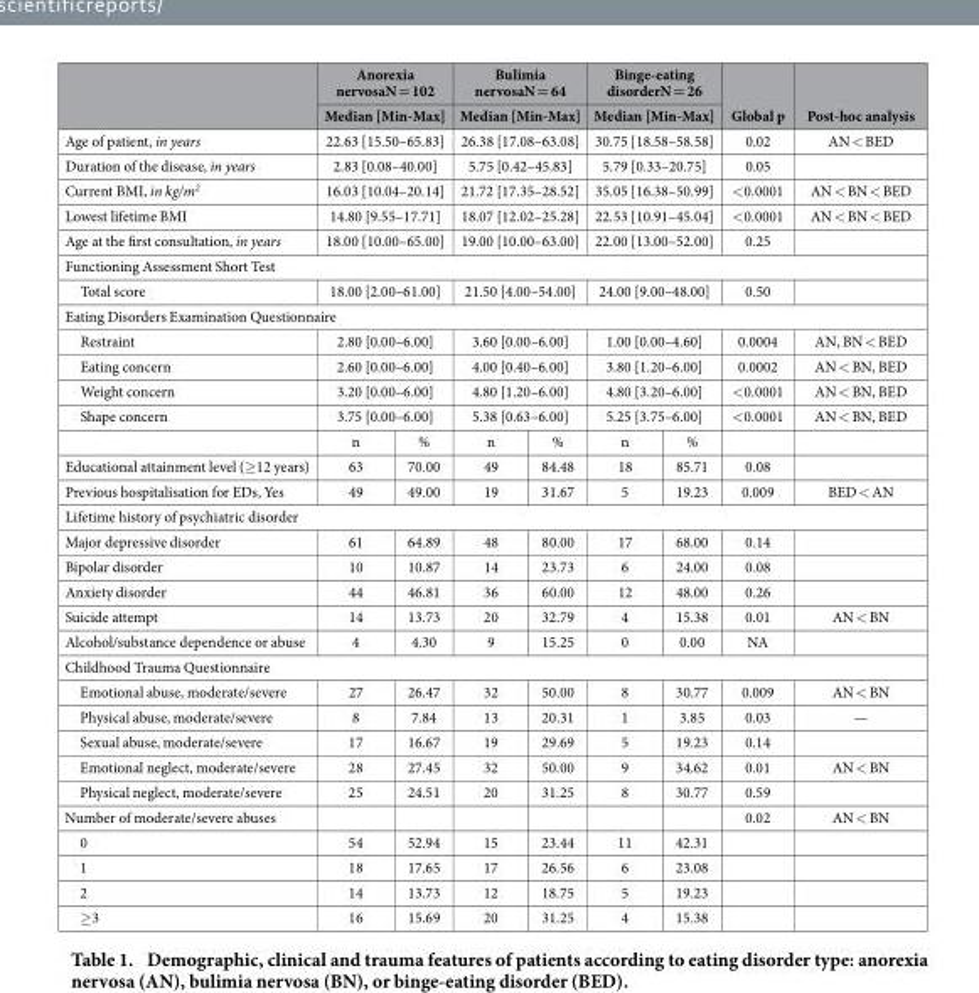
<table><thead><tr><td rowspan="2"></td><td rowspan="2" colspan="2">Anorexia nervosaN = 102 Median [Min-Max]</td><td rowspan="2" colspan="2">Bulimia nervosaN = 64 Median [Min-Max]</td><td rowspan="2" colspan="2">Binge-eating disorderN = 26 Median [Min-Max]</td><td rowspan="2">Global p</td><td rowspan="2">Post-hoc analysis</td></tr><tr></tr></thead><tbody><tr><td>Age of patient, in years</td><td colspan="2">22.63 [15.50–65.83]</td><td colspan="2">26.38 [17.08–63.08]</td><td colspan="2">30.75 [18.58–58.58]</td><td>0.02</td><td>AN &lt; BED</td></tr><tr><td>Duration of the disease, in years</td><td colspan="2">2.83 [0.08–40.00]</td><td colspan="2">5.75 [0.42–45.83]</td><td colspan="2">5.79 [0.33–20.75]</td><td>0.05</td><td></td></tr><tr><td>Current BMI, in kg/m<sup>2</sup></td><td colspan="2">16.03 [10.04–20.14]</td><td colspan="2">21.72 [17.35–28.52]</td><td colspan="2">35.05 [16.38–50.99]</td><td>&lt; 0.0001</td><td>AN &lt; BN &lt; BED</td></tr><tr><td>Lowest lifetime BMI</td><td colspan="2">14.80 [9.55–17.71]</td><td colspan="2">18.07 [12.02–25.28]</td><td colspan="2">22.53 [10.91–45.04]</td><td>&lt; 0.0001</td><td>AN &lt; BN &lt; BED</td></tr><tr><td>Age at the first consultation, in years</td><td colspan="2">18.00 [10.00–65.00]</td><td colspan="2">19.00 [10.00–63.00]</td><td colspan="2">22.00 [13.00–52.00]</td><td>0.25</td><td></td></tr><tr><td colspan="9">Functioning Assessment Short Test</td></tr><tr><td>Total score</td><td colspan="2">18.00 [2.00–61.00]</td><td colspan="2">21.50 [4.00–54.00]</td><td colspan="2">24.00 [9.00–48.00]</td><td>0.50</td><td></td></tr><tr><td colspan="9">Eating Disorders Examination Questionnaire</td></tr><tr><td>Restraint</td><td colspan="2">2.80 [0.00–6.00]</td><td colspan="2">3.60 [0.00–6.00]</td><td colspan="2">1.00 [0.00–4.60]</td><td>0.0004</td><td>AN, BN &lt; BED</td></tr><tr><td>Eating concern</td><td colspan="2">2.60 [0.00–6.00]</td><td colspan="2">4.00 [0.40–6.00]</td><td colspan="2">3.80 [1.20–6.00]</td><td>0.0002</td><td>AN &lt; BN, BED</td></tr><tr><td>Weight concern</td><td colspan="2">3.20 [0.00–6.00]</td><td colspan="2">4.80 [1.20–6.00]</td><td colspan="2">4.80 [3.20–6.00]</td><td>&lt; 0.0001</td><td>AN &lt; BN, BED</td></tr><tr><td rowspan="2">Shape concern</td><td colspan="2">3.75 [0.00–6.00]</td><td colspan="2">5.38 [0.63–6.00]</td><td colspan="2">5.25 [3.75–6.00]</td><td>&lt; 0.0001</td><td>AN &lt; BN, BED</td></tr><tr><td>n</td><td>%</td><td>n</td><td>%</td><td>n</td><td>%</td><td></td><td></td></tr><tr><td>Educational attainment level (≥ 12 years)</td><td>63</td><td>70.00</td><td>49</td><td>84.48</td><td>18</td><td>85.71</td><td>0.08</td><td></td></tr><tr><td>Previous hospitalisation for EDs, Yes</td><td>49</td><td>49.00</td><td>19</td><td>31.67</td><td>5</td><td>19.23</td><td>0.009</td><td>BED &lt; AN</td></tr><tr><td colspan="9">Lifetime history of psychiatric disorder</td></tr><tr><td>Major depressive disorder</td><td>61</td><td>64.89</td><td>48</td><td>80.00</td><td>17</td><td>68.00</td><td>0.14</td><td></td></tr><tr><td>Bipolar disorder</td><td>10</td><td>10.87</td><td>14</td><td>23.73</td><td>6</td><td>24.00</td><td>0.08</td><td></td></tr><tr><td>Anxiety disorder</td><td>44</td><td>46.81</td><td>36</td><td>60.00</td><td>12</td><td>48.00</td><td>0.26</td><td></td></tr><tr><td>Suicide attempt</td><td>14</td><td>13.73</td><td>20</td><td>32.79</td><td>4</td><td>15.38</td><td>0.01</td><td>AN &lt; BN</td></tr><tr><td>Alcohol/substance dependence or abuse</td><td>4</td><td>4.30</td><td>9</td><td>15.25</td><td>0</td><td>0.00</td><td>NA</td><td></td></tr><tr><td colspan="9">Childhood Trauma Questionnaire</td></tr><tr><td>Emotional abuse, moderate/severe</td><td>27</td><td>26.47</td><td>32</td><td>50.00</td><td>8</td><td>30.77</td><td>0.009</td><td>AN &lt; BN</td></tr><tr><td>Physical abuse, moderate/severe</td><td>8</td><td>7.84</td><td>13</td><td>20.31</td><td>1</td><td>3.85</td><td>0.03</td><td>—</td></tr><tr><td>Sexual abuse, moderate/severe</td><td>17</td><td>16.67</td><td>19</td><td>29.69</td><td>5</td><td>19.23</td><td>0.14</td><td></td></tr><tr><td>Emotional neglect, moderate/severe</td><td>28</td><td>27.45</td><td>32</td><td>50.00</td><td>9</td><td>34.62</td><td>0.01</td><td>AN &lt; BN</td></tr><tr><td>Physical neglect, moderate/severe</td><td>25</td><td>24.51</td><td>20</td><td>31.25</td><td>8</td><td>30.77</td><td>0.59</td><td></td></tr><tr><td>Number of moderate/severe abuses</td><td></td><td></td><td></td><td></td><td></td><td></td><td>0.02</td><td>AN &lt; BN</td></tr><tr><td>0</td><td>54</td><td>52.94</td><td>15</td><td>23.44</td><td>11</td><td>42.31</td><td></td><td></td></tr><tr><td>1</td><td>18</td><td>17.65</td><td>17</td><td>26.56</td><td>6</td><td>23.08</td><td></td><td></td></tr><tr><td>2</td><td>14</td><td>13.73</td><td>12</td><td>18.75</td><td>5</td><td>19.23</td><td></td><td></td></tr><tr><td>≥ 3</td><td>16</td><td>15.69</td><td>20</td><td>31.25</td><td>4</td><td>15.38</td><td></td><td></td></tr></tbody></table>